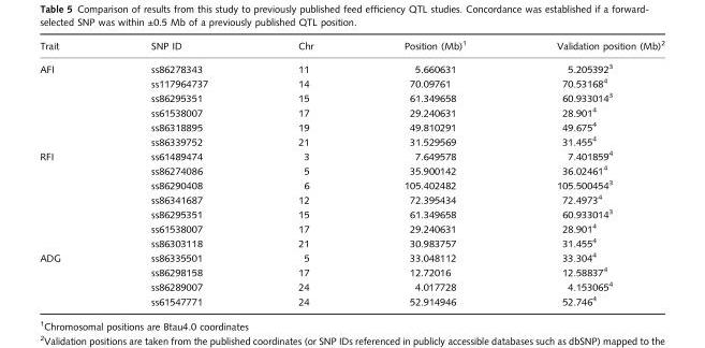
<table><thead><tr><td>Trait</td><td>SNP ID</td><td>Chr</td><td>Position (Mb)<sup>1</sup></td><td>Validation position (Mb)<sup>2</sup></td></tr></thead><tbody><tr><td rowspan="6">AFI</td><td>ss86278343</td><td>11</td><td>5.660631</td><td>5.205392<sup>3</sup></td></tr><tr><td>ss117964737</td><td>14</td><td>70.09761</td><td>70.53168<sup>4</sup></td></tr><tr><td>ss86295351</td><td>15</td><td>61.349658</td><td>60.933014<sup>3</sup></td></tr><tr><td>ss61538007</td><td>17</td><td>29.240631</td><td>28.901<sup>4</sup></td></tr><tr><td>ss86318895</td><td>19</td><td>49.810291</td><td>49.675<sup>4</sup></td></tr><tr><td>ss86339752</td><td>21</td><td>31.529569</td><td>31.455<sup>4</sup></td></tr><tr><td rowspan="7">RFI</td><td>ss61489474</td><td>3</td><td>7.649578</td><td>7.401859<sup>4</sup></td></tr><tr><td>ss86274086</td><td>5</td><td>35.900142</td><td>36.02461<sup>4</sup></td></tr><tr><td>ss86290408</td><td>6</td><td>105.402482</td><td>105.500454<sup>3</sup></td></tr><tr><td>ss86341687</td><td>12</td><td>72.395434</td><td>72.4973<sup>4</sup></td></tr><tr><td>ss86295351</td><td>15</td><td>61.349658</td><td>60.933014<sup>3</sup></td></tr><tr><td>ss61538007</td><td>17</td><td>29.240631</td><td>28.901<sup>4</sup></td></tr><tr><td>ss86303118</td><td>21</td><td>30.983757</td><td>31.455<sup>4</sup></td></tr><tr><td rowspan="4">ADG</td><td>ss86335501</td><td>5</td><td>33.048112</td><td>33.304<sup>4</sup></td></tr><tr><td>ss86298158</td><td>17</td><td>12.72016</td><td>12.58837<sup>4</sup></td></tr><tr><td>ss86289007</td><td>24</td><td>4.017728</td><td>4.153065<sup>4</sup></td></tr><tr><td>ss61547771</td><td>24</td><td>52.914946</td><td>52.746<sup>4</sup></td></tr></tbody></table>